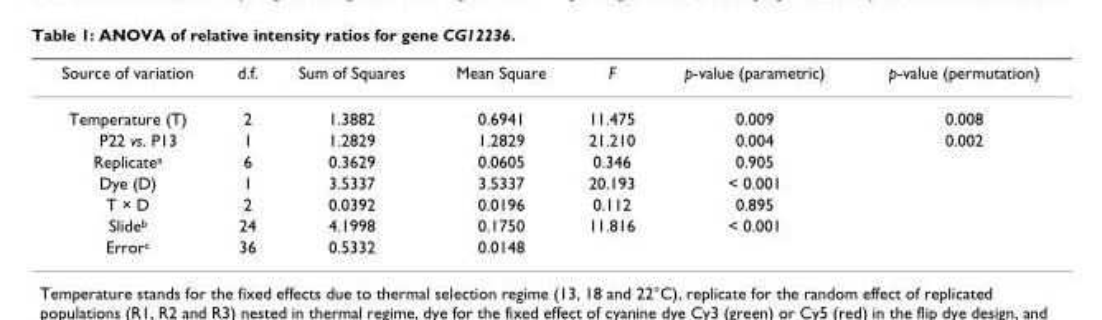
<table><thead><tr><td>Source of variation</td><td>d.f.</td><td>Sum of Squares</td><td>Mean Square</td><td>F</td><td>p-value (parametric)</td><td>p-value (permutation)</td></tr></thead><tbody><tr><td>Temperature (T)</td><td>2</td><td>1.3882</td><td>0.6941</td><td>11.475</td><td>0.009</td><td>0.008</td></tr><tr><td>P22 vs. P13</td><td>1</td><td>1.2829</td><td>1.2829</td><td>21.210</td><td>0.004</td><td>0.002</td></tr><tr><td>Replicate<sup>a</sup></td><td>6</td><td>0.3629</td><td>0.0605</td><td>0.346</td><td>0.905</td><td></td></tr><tr><td>Dye (D)</td><td>1</td><td>3.5337</td><td>3.5337</td><td>20.193</td><td>&lt; 0.001</td><td></td></tr><tr><td>T × D</td><td>2</td><td>0.0392</td><td>0.0196</td><td>0.112</td><td>0.895</td><td></td></tr><tr><td>Slide<sup>b</sup></td><td>24</td><td>4.1998</td><td>0.1750</td><td>11.816</td><td>&lt; 0.001</td><td></td></tr><tr><td>Error<sup>c</sup></td><td>36</td><td>0.5332</td><td>0.0148</td><td></td><td></td><td></td></tr></tbody></table>